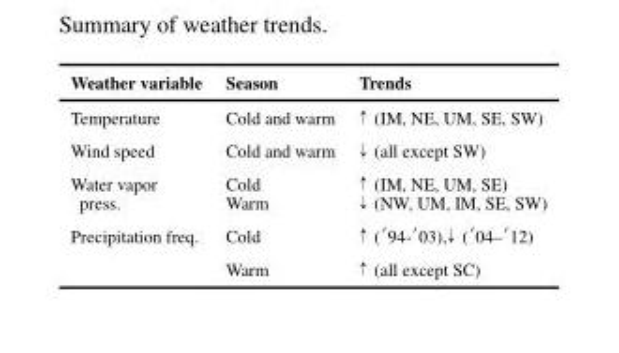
<table><thead><tr><td>Weather variable</td><td>Season</td><td>Trends</td></tr></thead><tbody><tr><td>Temperature</td><td>Cold and warm</td><td>↑ (IM, NE, UM, SE, SW)</td></tr><tr><td>Wind speed</td><td>Cold and warm</td><td>↓ (all except SW)</td></tr><tr><td>Water vapor press.</td><td>Cold Warm</td><td>↑ (IM, NE, UM, SE) ↓ (NW, UM, IM, SE, SW)</td></tr><tr><td rowspan="2">Precipitation freq.</td><td>Cold</td><td>↑ (′94-′03),↓ (′04–′12)</td></tr><tr><td>Warm</td><td>↑ (all except SC)</td></tr></tbody></table>